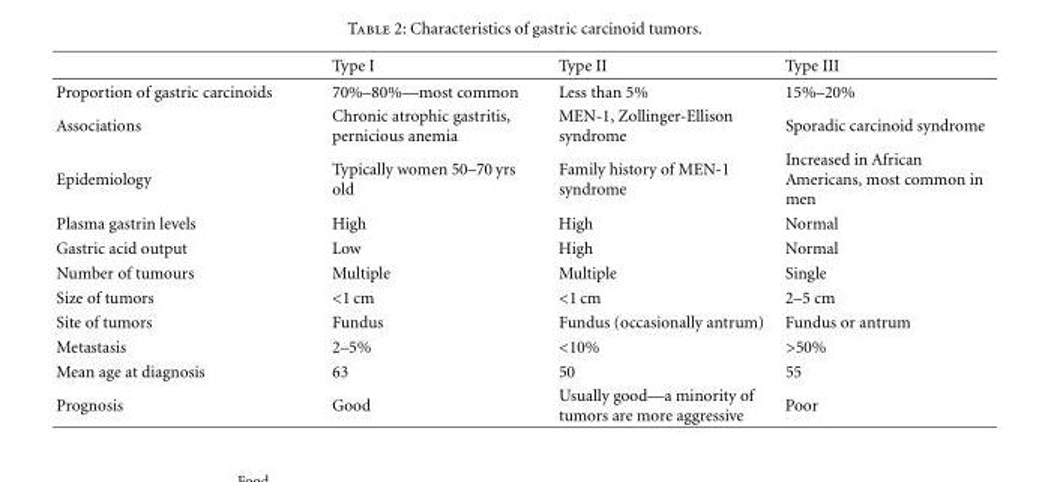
<table><thead><tr><td></td><td>Type I</td><td>Type II</td><td>Type III</td></tr></thead><tbody><tr><td>Proportion of gastric carcinoids</td><td>70%–80%—most common</td><td>Less than 5%</td><td>15%–20%</td></tr><tr><td>Associations</td><td>Chronic atrophic gastritis, pernicious anemia</td><td>MEN-1, Zollinger-Ellison syndrome</td><td>Sporadic carcinoid syndrome</td></tr><tr><td>Epidemiology</td><td>Typically women 50–70 yrs old</td><td>Family history of MEN-1 syndrome</td><td>Increased in African Americans, most common in men</td></tr><tr><td>Plasma gastrin levels</td><td>High</td><td>High</td><td>Normal</td></tr><tr><td>Gastric acid output</td><td>Low</td><td>High</td><td>Normal</td></tr><tr><td>Number of tumours</td><td>Multiple</td><td>Multiple</td><td>Single</td></tr><tr><td>Size of tumors</td><td>&lt;1 cm</td><td>&lt;1 cm</td><td>2–5 cm</td></tr><tr><td>Site of tumors</td><td>Fundus</td><td>Fundus (occasionally antrum)</td><td>Fundus or antrum</td></tr><tr><td>Metastasis</td><td>2–5%</td><td>&lt;10%</td><td>&gt;50%</td></tr><tr><td>Mean age at diagnosis</td><td>63</td><td>50</td><td>55</td></tr><tr><td>Prognosis</td><td>Good</td><td>Usually good—a minority of tumors are more aggressive</td><td>Poor</td></tr></tbody></table>